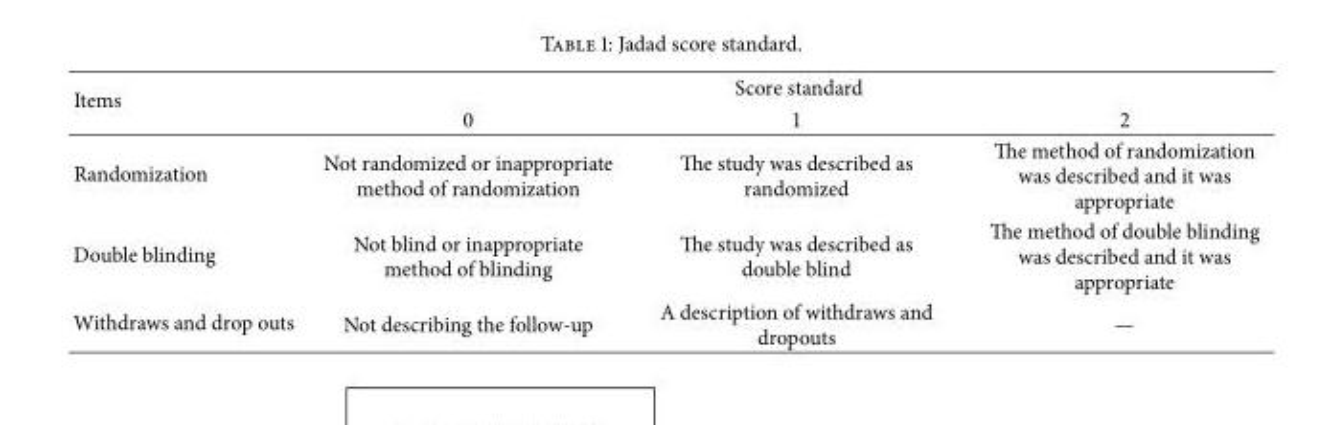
<table><thead><tr><td rowspan="2">Items</td><td colspan="3">Score standard</td></tr><tr><td>0</td><td>1</td><td>2</td></tr></thead><tbody><tr><td>Randomization</td><td>Not randomized or inappropriate method of randomization</td><td>The study was described as randomized</td><td>The method of randomization was described and it was appropriate</td></tr><tr><td>Double blinding</td><td>Not blind or inappropriate method of blinding</td><td>The study was described as double blind</td><td>The method of double blinding was described and it was appropriate</td></tr><tr><td>Withdraws and drop outs</td><td>Not describing the follow-up</td><td>A description of withdraws and dropouts</td><td>—</td></tr></tbody></table>